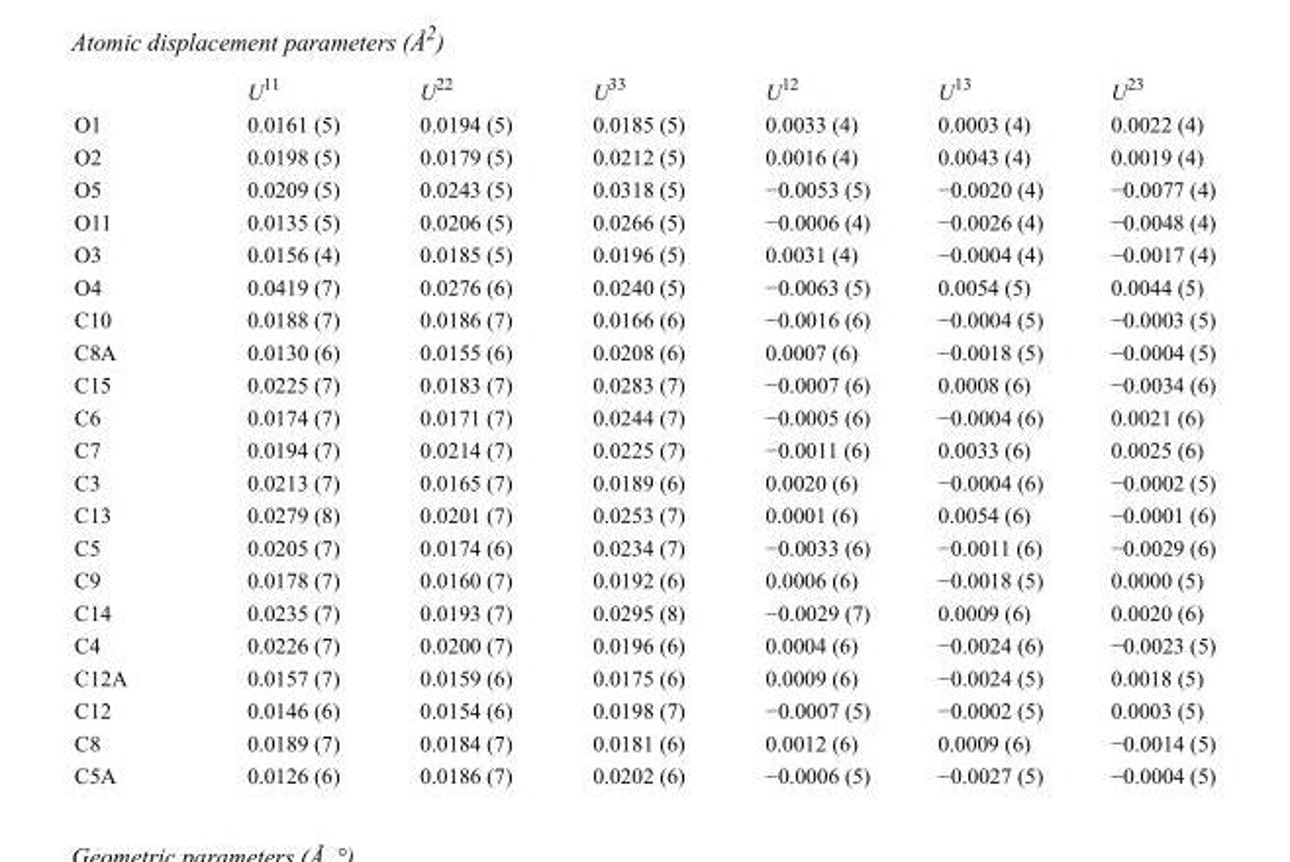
<table><thead><tr><td></td><td>U<sup>11</sup></td><td>U<sup>22</sup></td><td>U<sup>33</sup></td><td>U<sup>12</sup></td><td>U<sup>13</sup></td><td>U<sup>23</sup></td></tr></thead><tbody><tr><td>O1</td><td>0.0161 (5)</td><td>0.0194 (5)</td><td>0.0185 (5)</td><td>0.0033 (4)</td><td>0.0003 (4)</td><td>0.0022 (4)</td></tr><tr><td>O2</td><td>0.0198 (5)</td><td>0.0179 (5)</td><td>0.0212 (5)</td><td>0.0016 (4)</td><td>0.0043 (4)</td><td>0.0019 (4)</td></tr><tr><td>O5</td><td>0.0209 (5)</td><td>0.0243 (5)</td><td>0.0318 (5)</td><td>−0.0053 (5)</td><td>−0.0020 (4)</td><td>−0.0077 (4)</td></tr><tr><td>O11</td><td>0.0135 (5)</td><td>0.0206 (5)</td><td>0.0266 (5)</td><td>−0.0006 (4)</td><td>−0.0026 (4)</td><td>−0.0048 (4)</td></tr><tr><td>O3</td><td>0.0156 (4)</td><td>0.0185 (5)</td><td>0.0196 (5)</td><td>0.0031 (4)</td><td>−0.0004 (4)</td><td>−0.0017 (4)</td></tr><tr><td>O4</td><td>0.0419 (7)</td><td>0.0276 (6)</td><td>0.0240 (5)</td><td>−0.0063 (5)</td><td>0.0054 (5)</td><td>0.0044 (5)</td></tr><tr><td>C10</td><td>0.0188 (7)</td><td>0.0186 (7)</td><td>0.0166 (6)</td><td>−0.0016 (6)</td><td>−0.0004 (5)</td><td>−0.0003 (5)</td></tr><tr><td>C8A</td><td>0.0130 (6)</td><td>0.0155 (6)</td><td>0.0208 (6)</td><td>0.0007 (6)</td><td>−0.0018 (5)</td><td>−0.0004 (5)</td></tr><tr><td>C15</td><td>0.0225 (7)</td><td>0.0183 (7)</td><td>0.0283 (7)</td><td>−0.0007 (6)</td><td>0.0008 (6)</td><td>−0.0034 (6)</td></tr><tr><td>C6</td><td>0.0174 (7)</td><td>0.0171 (7)</td><td>0.0244 (7)</td><td>−0.0005 (6)</td><td>−0.0004 (6)</td><td>0.0021 (6)</td></tr><tr><td>C7</td><td>0.0194 (7)</td><td>0.0214 (7)</td><td>0.0225 (7)</td><td>−0.0011 (6)</td><td>0.0033 (6)</td><td>0.0025 (6)</td></tr><tr><td>C3</td><td>0.0213 (7)</td><td>0.0165 (7)</td><td>0.0189 (6)</td><td>0.0020 (6)</td><td>−0.0004 (6)</td><td>−0.0002 (5)</td></tr><tr><td>C13</td><td>0.0279 (8)</td><td>0.0201 (7)</td><td>0.0253 (7)</td><td>0.0001 (6)</td><td>0.0054 (6)</td><td>−0.0001 (6)</td></tr><tr><td>C5</td><td>0.0205 (7)</td><td>0.0174 (6)</td><td>0.0234 (7)</td><td>−0.0033 (6)</td><td>−0.0011 (6)</td><td>−0.0029 (6)</td></tr><tr><td>C9</td><td>0.0178 (7)</td><td>0.0160 (7)</td><td>0.0192 (6)</td><td>0.0006 (6)</td><td>−0.0018 (5)</td><td>0.0000 (5)</td></tr><tr><td>C14</td><td>0.0235 (7)</td><td>0.0193 (7)</td><td>0.0295 (8)</td><td>−0.0029 (7)</td><td>0.0009 (6)</td><td>0.0020 (6)</td></tr><tr><td>C4</td><td>0.0226 (7)</td><td>0.0200 (7)</td><td>0.0196 (6)</td><td>0.0004 (6)</td><td>−0.0024 (6)</td><td>−0.0023 (5)</td></tr><tr><td>C12A</td><td>0.0157 (7)</td><td>0.0159 (6)</td><td>0.0175 (6)</td><td>0.0009 (6)</td><td>−0.0024 (5)</td><td>0.0018 (5)</td></tr><tr><td>C12</td><td>0.0146 (6)</td><td>0.0154 (6)</td><td>0.0198 (7)</td><td>−0.0007 (5)</td><td>−0.0002 (5)</td><td>0.0003 (5)</td></tr><tr><td>C8</td><td>0.0189 (7)</td><td>0.0184 (7)</td><td>0.0181 (6)</td><td>0.0012 (6)</td><td>0.0009 (6)</td><td>−0.0014 (5)</td></tr><tr><td>C5A</td><td>0.0126 (6)</td><td>0.0186 (7)</td><td>0.0202 (6)</td><td>−0.0006 (5)</td><td>−0.0027 (5)</td><td>−0.0004 (5)</td></tr></tbody></table>